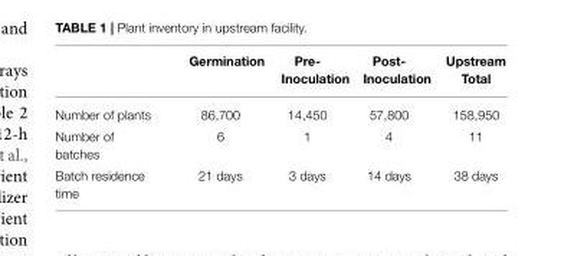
<table><thead><tr><td></td><td>Germination</td><td>Pre- Inoculation</td><td>Post- Inoculation</td><td>Upstream Total</td></tr></thead><tbody><tr><td>Number of plants</td><td>86,700</td><td>14,450</td><td>57,800</td><td>158,950</td></tr><tr><td>Number of batches</td><td>6</td><td>1</td><td>4</td><td>11</td></tr><tr><td>Batch residence time</td><td>21 days</td><td>3 days</td><td>14 days</td><td>38 days</td></tr></tbody></table>